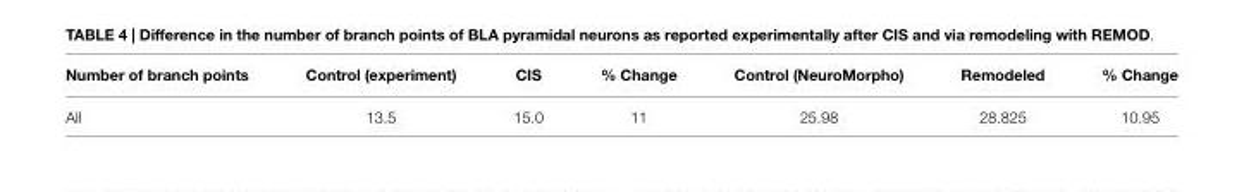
<table><thead><tr><td>Number of branch points</td><td>Control (experiment)</td><td>CIS</td><td>% Change</td><td>Control (NeuroMorpho)</td><td>Remodeled</td><td>% Change</td></tr></thead><tbody><tr><td>All</td><td>13.5</td><td>15.0</td><td>11</td><td>25.98</td><td>28.825</td><td>10.95</td></tr></tbody></table>